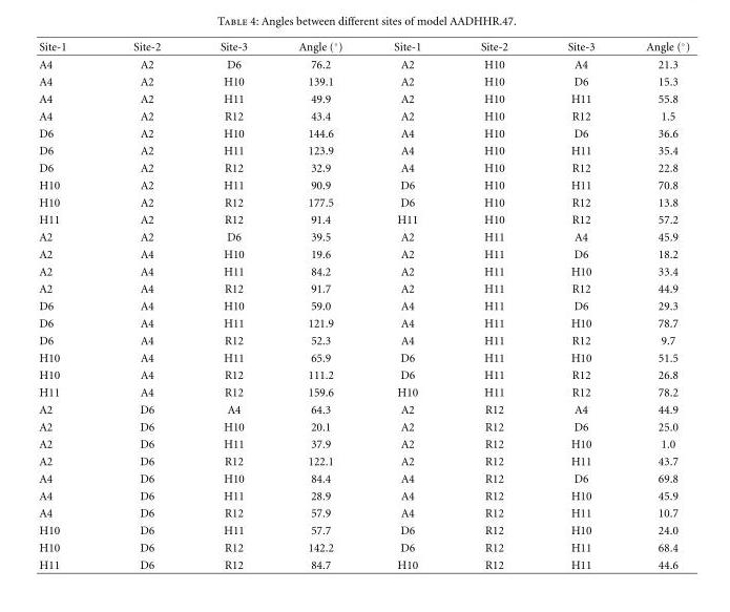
<table><thead><tr><td>Site-1</td><td>Site-2</td><td>Site-3</td><td>Angle (◦)</td><td>Site-1</td><td>Site-2</td><td>Site-3</td><td>Angle (◦)</td></tr></thead><tbody><tr><td>A4</td><td>A2</td><td>D6</td><td>76.2</td><td>A2</td><td>H10</td><td>A4</td><td>21.3</td></tr><tr><td>A4</td><td>A2</td><td>H10</td><td>139.1</td><td>A2</td><td>H10</td><td>D6</td><td>15.3</td></tr><tr><td>A4</td><td>A2</td><td>H11</td><td>49.9</td><td>A2</td><td>H10</td><td>H11</td><td>55.8</td></tr><tr><td>A4</td><td>A2</td><td>R12</td><td>43.4</td><td>A2</td><td>H10</td><td>R12</td><td>1.5</td></tr><tr><td>D6</td><td>A2</td><td>H10</td><td>144.6</td><td>A4</td><td>H10</td><td>D6</td><td>36.6</td></tr><tr><td>D6</td><td>A2</td><td>H11</td><td>123.9</td><td>A4</td><td>H10</td><td>H11</td><td>35.4</td></tr><tr><td>D6</td><td>A2</td><td>R12</td><td>32.9</td><td>A4</td><td>H10</td><td>R12</td><td>22.8</td></tr><tr><td>H10</td><td>A2</td><td>H11</td><td>90.9</td><td>D6</td><td>H10</td><td>H11</td><td>70.8</td></tr><tr><td>H10</td><td>A2</td><td>R12</td><td>177.5</td><td>D6</td><td>H10</td><td>R12</td><td>13.8</td></tr><tr><td>H11</td><td>A2</td><td>R12</td><td>91.4</td><td>H11</td><td>H10</td><td>R12</td><td>57.2</td></tr><tr><td>A2</td><td>A2</td><td>D6</td><td>39.5</td><td>A2</td><td>H11</td><td>A4</td><td>45.9</td></tr><tr><td>A2</td><td>A4</td><td>H10</td><td>19.6</td><td>A2</td><td>H11</td><td>D6</td><td>18.2</td></tr><tr><td>A2</td><td>A4</td><td>H11</td><td>84.2</td><td>A2</td><td>H11</td><td>H10</td><td>33.4</td></tr><tr><td>A2</td><td>A4</td><td>R12</td><td>91.7</td><td>A2</td><td>H11</td><td>R12</td><td>44.9</td></tr><tr><td>D6</td><td>A4</td><td>H10</td><td>59.0</td><td>A4</td><td>H11</td><td>D6</td><td>29.3</td></tr><tr><td>D6</td><td>A4</td><td>H11</td><td>121.9</td><td>A4</td><td>H11</td><td>H10</td><td>78.7</td></tr><tr><td>D6</td><td>A4</td><td>R12</td><td>52.3</td><td>A4</td><td>H11</td><td>R12</td><td>9.7</td></tr><tr><td>H10</td><td>A4</td><td>H11</td><td>65.9</td><td>D6</td><td>H11</td><td>H10</td><td>51.5</td></tr><tr><td>H10</td><td>A4</td><td>R12</td><td>111.2</td><td>D6</td><td>H11</td><td>R12</td><td>26.8</td></tr><tr><td>H11</td><td>A4</td><td>R12</td><td>159.6</td><td>H10</td><td>H11</td><td>R12</td><td>78.2</td></tr><tr><td>A2</td><td>D6</td><td>A4</td><td>64.3</td><td>A2</td><td>R12</td><td>A4</td><td>44.9</td></tr><tr><td>A2</td><td>D6</td><td>H10</td><td>20.1</td><td>A2</td><td>R12</td><td>D6</td><td>25.0</td></tr><tr><td>A2</td><td>D6</td><td>H11</td><td>37.9</td><td>A2</td><td>R12</td><td>H10</td><td>1.0</td></tr><tr><td>A2</td><td>D6</td><td>R12</td><td>122.1</td><td>A2</td><td>R12</td><td>H11</td><td>43.7</td></tr><tr><td>A4</td><td>D6</td><td>H10</td><td>84.4</td><td>A4</td><td>R12</td><td>D6</td><td>69.8</td></tr><tr><td>A4</td><td>D6</td><td>H11</td><td>28.9</td><td>A4</td><td>R12</td><td>H10</td><td>45.9</td></tr><tr><td>A4</td><td>D6</td><td>R12</td><td>57.9</td><td>A4</td><td>R12</td><td>H11</td><td>10.7</td></tr><tr><td>H10</td><td>D6</td><td>H11</td><td>57.7</td><td>D6</td><td>R12</td><td>H10</td><td>24.0</td></tr><tr><td>H10</td><td>D6</td><td>R12</td><td>142.2</td><td>D6</td><td>R12</td><td>H11</td><td>68.4</td></tr><tr><td>H11</td><td>D6</td><td>R12</td><td>84.7</td><td>H10</td><td>R12</td><td>H11</td><td>44.6</td></tr></tbody></table>